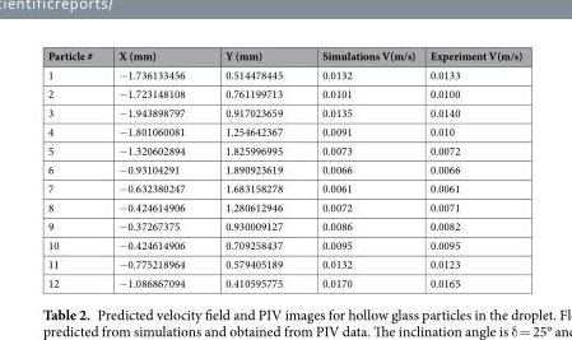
<table><thead><tr><td>Particle #</td><td>X (mm)</td><td>Y (mm)</td><td>Simulations V(m/s)</td><td>Experiment V(m/s)</td></tr></thead><tbody><tr><td>1</td><td>−1.736133456</td><td>0.514478445</td><td>0.0132</td><td>0.0133</td></tr><tr><td>2</td><td>−1.723148108</td><td>0.761199713</td><td>0.0101</td><td>0.0100</td></tr><tr><td>3</td><td>−1.943898797</td><td>0.917023659</td><td>0.0135</td><td>0.0140</td></tr><tr><td>4</td><td>−1.801060081</td><td>1.254642367</td><td>0.0091</td><td>0.010</td></tr><tr><td>5</td><td>−1.320602894</td><td>1.825996995</td><td>0.0073</td><td>0.0072</td></tr><tr><td>6</td><td>−0.93104291</td><td>1.890923619</td><td>0.0066</td><td>0.0066</td></tr><tr><td>7</td><td>−0.632380247</td><td>1.683158278</td><td>0.0061</td><td>0.0061</td></tr><tr><td>8</td><td>−0.424614906</td><td>1.280612946</td><td>0.0072</td><td>0.0071</td></tr><tr><td>9</td><td>−0.37267375</td><td>0.930009127</td><td>0.0086</td><td>0.0082</td></tr><tr><td>10</td><td>−0.424614906</td><td>0.709258437</td><td>0.0095</td><td>0.0095</td></tr><tr><td>11</td><td>−0.775218964</td><td>0.579405189</td><td>0.0132</td><td>0.0123</td></tr><tr><td>12</td><td>−1.086867094</td><td>0.410595775</td><td>0.0170</td><td>0.0165</td></tr></tbody></table>